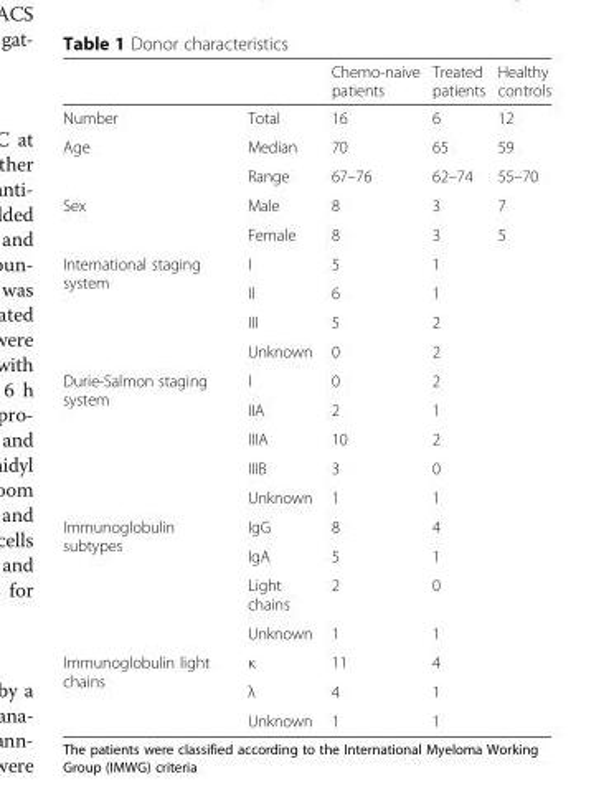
<table><thead><tr><td></td><td></td><td>Chemo-naive patients</td><td>Treated patients</td><td>Healthy controls</td></tr></thead><tbody><tr><td>Number</td><td>Total</td><td>16</td><td>6</td><td>12</td></tr><tr><td rowspan="2">Age</td><td>Median</td><td>70</td><td>65</td><td>59</td></tr><tr><td>Range</td><td>67–76</td><td>62–74</td><td>55–70</td></tr><tr><td rowspan="2">Sex</td><td>Male</td><td>8</td><td>3</td><td>7</td></tr><tr><td>Female</td><td>8</td><td>3</td><td>5</td></tr><tr><td rowspan="4">International staging system</td><td>I</td><td>5</td><td>1</td><td rowspan="16"></td></tr><tr><td>II</td><td>6</td><td>1</td></tr><tr><td>III</td><td>5</td><td>2</td></tr><tr><td>Unknown</td><td>0</td><td>2</td></tr><tr><td rowspan="5">Durie-Salmon staging system</td><td>I</td><td>0</td><td>2</td></tr><tr><td>IIA</td><td>2</td><td>1</td></tr><tr><td>IIIA</td><td>10</td><td>2</td></tr><tr><td>IIIB</td><td>3</td><td>0</td></tr><tr><td>Unknown</td><td>1</td><td>1</td></tr><tr><td rowspan="4">Immunoglobulin subtypes</td><td>IgG</td><td>8</td><td>4</td></tr><tr><td>IgA</td><td>5</td><td>1</td></tr><tr><td>Light chains</td><td>2</td><td>0</td></tr><tr><td>Unknown</td><td>1</td><td>1</td></tr><tr><td rowspan="3">Immunoglobulin light chains</td><td>κ</td><td>11</td><td>4</td></tr><tr><td>λ</td><td>4</td><td>1</td></tr><tr><td>Unknown</td><td>1</td><td>1</td></tr></tbody></table>